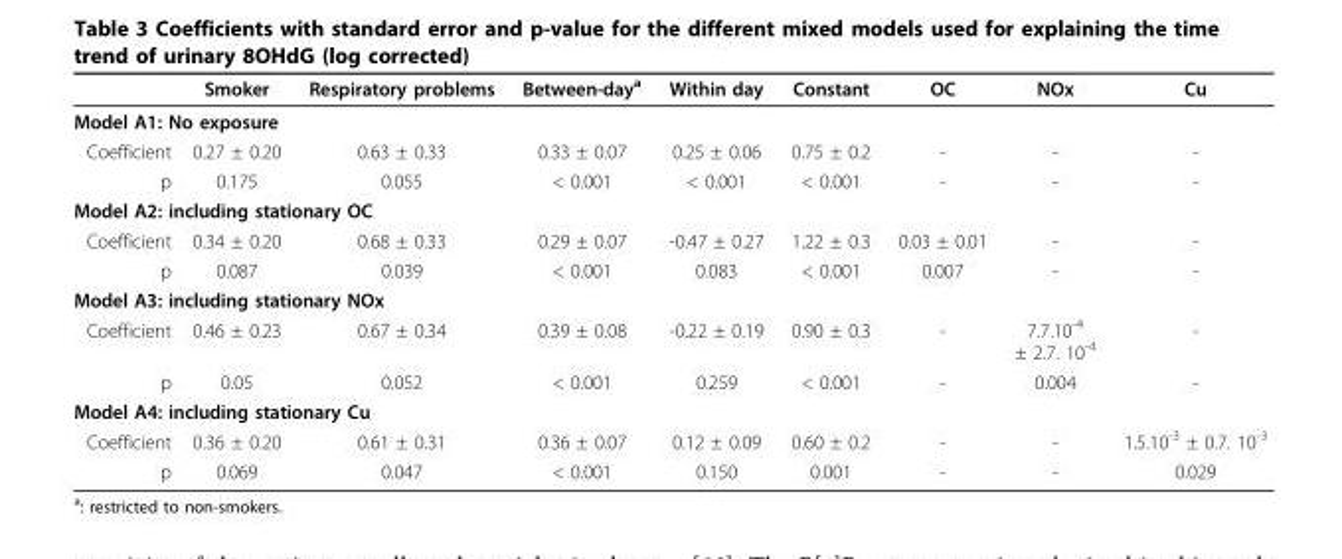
<table><thead><tr><td></td><td>Smoker</td><td>Respiratory problems</td><td>Between-day<sup>a</sup></td><td>Within day</td><td>Constant</td><td>OC</td><td>NOx</td><td>Cu</td></tr></thead><tbody><tr><td colspan="9">Model A1: No exposure</td></tr><tr><td>Coefficient</td><td>0.27 ± 0.20</td><td>0.63 ± 0.33</td><td>0.33 ± 0.07</td><td>0.25 ± 0.06</td><td>0.75 ± 0.2</td><td>-</td><td>-</td><td>-</td></tr><tr><td>p</td><td>0.175</td><td>0.055</td><td>&lt; 0.001</td><td>&lt; 0.001</td><td>&lt; 0.001</td><td>-</td><td>-</td><td>-</td></tr><tr><td colspan="9">Model A2: including stationary OC</td></tr><tr><td>Coefficient</td><td>0.34 ± 0.20</td><td>0.68 ± 0.33</td><td>0.29 ± 0.07</td><td>-0.47 ± 0.27</td><td>1.22 ± 0.3</td><td>0.03 ± 0.01</td><td>-</td><td>-</td></tr><tr><td>p</td><td>0.087</td><td>0.039</td><td>&lt; 0.001</td><td>0.083</td><td>&lt; 0.001</td><td>0.007</td><td>-</td><td>-</td></tr><tr><td colspan="9">Model A3: including stationary NOx</td></tr><tr><td>Coefficient</td><td>0.46 ± 0.23</td><td>0.67 ± 0.34</td><td>0.39 ± 0.08</td><td>-0.22 ± 0.19</td><td>0.90 ± 0.3</td><td>-</td><td>7.7.10<sup>-4</sup> ± 2.7. 10<sup>-4</sup></td><td>-</td></tr><tr><td>p</td><td>0.05</td><td>0.052</td><td>&lt; 0.001</td><td>0.259</td><td>&lt; 0.001</td><td>-</td><td>0.004</td><td>-</td></tr><tr><td colspan="9">Model A4: including stationary Cu</td></tr><tr><td>Coefficient</td><td>0.36 ± 0.20</td><td>0.61 ± 0.31</td><td>0.36 ± 0.07</td><td>0.12 ± 0.09</td><td>0.60 ± 0.2</td><td>-</td><td>-</td><td>1.5.10<sup>-3</sup> ± 0.7. 10<sup>-3</sup></td></tr><tr><td>p</td><td>0.069</td><td>0.047</td><td>&lt; 0.001</td><td>0.150</td><td>0.001</td><td>-</td><td>-</td><td>0.029</td></tr></tbody></table>